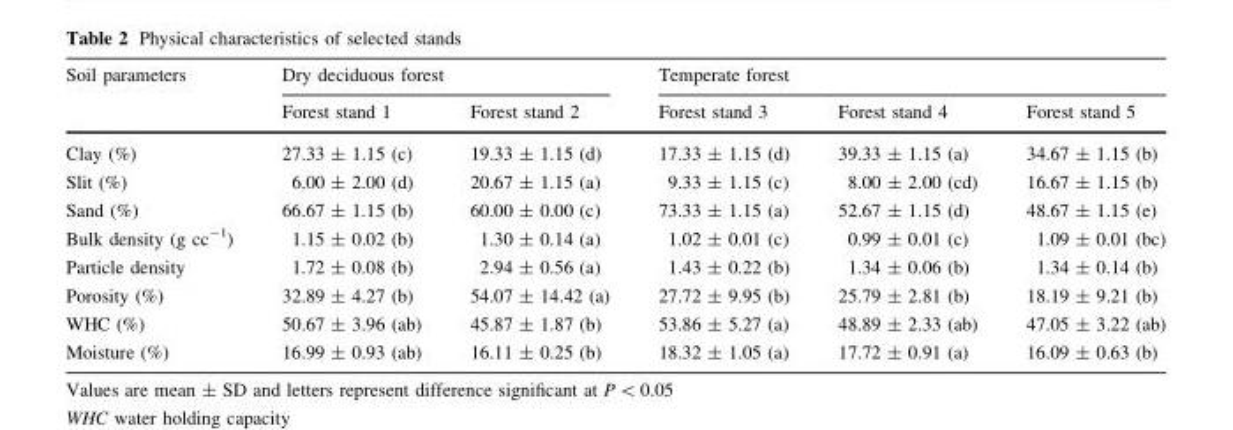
<table><thead><tr><td rowspan="2">Soil parameters</td><td colspan="2">Dry deciduous forest</td><td colspan="3">Temperate forest</td></tr><tr><td>Forest stand 1</td><td>Forest stand 2</td><td>Forest stand 3</td><td>Forest stand 4</td><td>Forest stand 5</td></tr></thead><tbody><tr><td>Clay (%)</td><td>27.33 ± 1.15 (c)</td><td>19.33 ± 1.15 (d)</td><td>17.33 ± 1.15 (d)</td><td>39.33 ± 1.15 (a)</td><td>34.67 ± 1.15 (b)</td></tr><tr><td>Slit (%)</td><td>6.00 ± 2.00 (d)</td><td>20.67 ± 1.15 (a)</td><td>9.33 ± 1.15 (c)</td><td>8.00 ± 2.00 (cd)</td><td>16.67 ± 1.15 (b)</td></tr><tr><td>Sand (%)</td><td>66.67 ± 1.15 (b)</td><td>60.00 ± 0.00 (c)</td><td>73.33 ± 1.15 (a)</td><td>52.67 ± 1.15 (d)</td><td>48.67 ± 1.15 (e)</td></tr><tr><td>Bulk density (g cc<sup>-1</sup>)</td><td>1.15 ± 0.02 (b)</td><td>1.30 ± 0.14 (a)</td><td>1.02 ± 0.01 (c)</td><td>0.99 ± 0.01 (c)</td><td>1.09 ± 0.01 (bc)</td></tr><tr><td>Particle density</td><td>1.72 ± 0.08 (b)</td><td>2.94 ± 0.56 (a)</td><td>1.43 ± 0.22 (b)</td><td>1.34 ± 0.06 (b)</td><td>1.34 ± 0.14 (b)</td></tr><tr><td>Porosity (%)</td><td>32.89 ± 4.27 (b)</td><td>54.07 ± 14.42 (a)</td><td>27.72 ± 9.95 (b)</td><td>25.79 ± 2.81 (b)</td><td>18.19 ± 9.21 (b)</td></tr><tr><td>WHC (%)</td><td>50.67 ± 3.96 (ab)</td><td>45.87 ± 1.87 (b)</td><td>53.86 ± 5.27 (a)</td><td>48.89 ± 2.33 (ab)</td><td>47.05 ± 3.22 (ab)</td></tr><tr><td>Moisture (%)</td><td>16.99 ± 0.93 (ab)</td><td>16.11 ± 0.25 (b)</td><td>18.32 ± 1.05 (a)</td><td>17.72 ± 0.91 (a)</td><td>16.09 ± 0.63 (b)</td></tr></tbody></table>